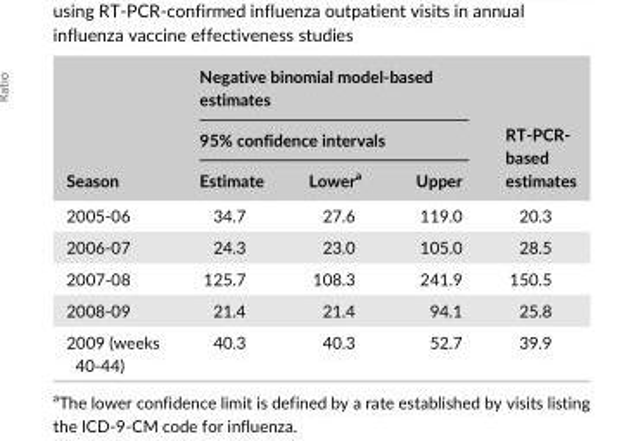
<table><thead><tr><td rowspan="3">Season</td><td rowspan="2" colspan="3">Negative binomial model- based estimates 95% confidence intervals</td><td rowspan="3">RT- PCR- based estimates</td></tr><tr></tr><tr><td>Estimate</td><td>Lower<sup>a</sup></td><td>Upper</td></tr></thead><tbody><tr><td>2005- 06</td><td>34.7</td><td>27.6</td><td>119.0</td><td>20.3</td></tr><tr><td>2006- 07</td><td>24.3</td><td>23.0</td><td>105.0</td><td>28.5</td></tr><tr><td>2007- 08</td><td>125.7</td><td>108.3</td><td>241.9</td><td>150.5</td></tr><tr><td>2008- 09</td><td>21.4</td><td>21.4</td><td>94.1</td><td>25.8</td></tr><tr><td>2009 (weeks 40- 44)</td><td>40.3</td><td>40.3</td><td>52.7</td><td>39.9</td></tr></tbody></table>